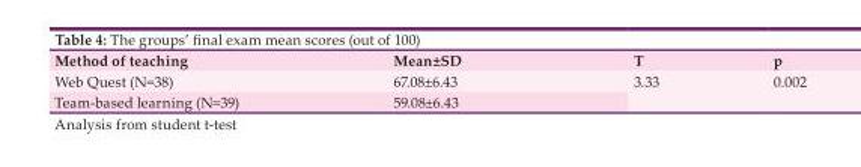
<table><thead><tr><td>Method of teaching</td><td>Mean±SD</td><td>T</td><td>p</td></tr></thead><tbody><tr><td>Web Quest (N=38)</td><td>67.08±6.43</td><td rowspan="2">3.33</td><td rowspan="2">0.002</td></tr><tr><td>Team-based learning (N=39)</td><td>59.08±6.43</td></tr></tbody></table>